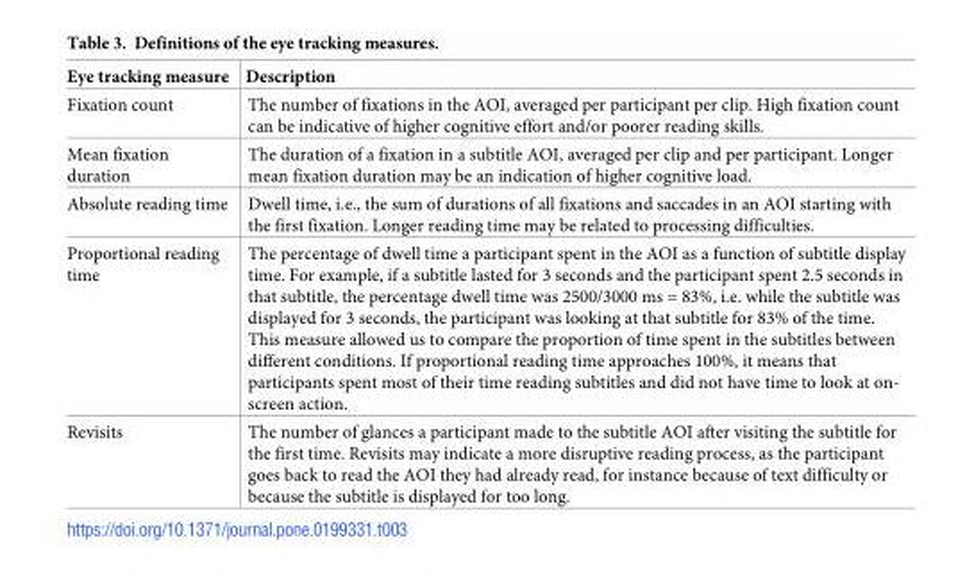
<table><thead><tr><td>Eye tracking measure</td><td>Description</td></tr></thead><tbody><tr><td>Fixation count</td><td>The number of fixations in the AOI, averaged per participant per clip. High fixation count can be indicative of higher cognitive effort and/or poorer reading skills.</td></tr><tr><td>Mean fixation duration</td><td>The duration of a fixation in a subtitle AOI, averaged per clip and per participant. Longer mean fixation duration may be an indication of higher cognitive load.</td></tr><tr><td>Absolute reading time</td><td>Dwell time, i.e., the sum of durations of all fixations and saccades in an AOI starting with the first fixation. Longer reading time may be related to processing difficulties.</td></tr><tr><td>Proportional reading time</td><td>The percentage of dwell time a participant spent in the AOI as a function of subtitle display time. For example, if a subtitle lasted for 3 seconds and the participant spent 2.5 seconds in that subtitle, the percentage dwell time was 2500/3000 ms = 83%, i.e. while the subtitle was displayed for 3 seconds, the participant was looking at that subtitle for 83% of the time. This measure allowed us to compare the proportion of time spent in the subtitles between different conditions. If proportional reading time approaches 100%, it means that participants spent most of their time reading subtitles and did not have time to look at on- screen action.</td></tr><tr><td>Revisits</td><td>The number of glances a participant made to the subtitle AOI after visiting the subtitle for the first time. Revisits may indicate a more disruptive reading process, as the participant goes back to read the AOI they had already read, for instance because of text difficulty or because the subtitle is displayed for too long.</td></tr></tbody></table>